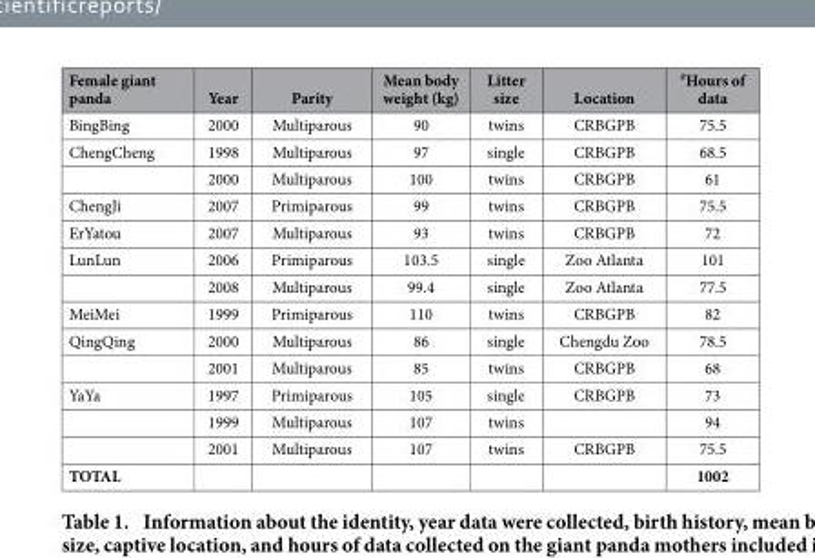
<table><thead><tr><td>Female giant panda</td><td>Year</td><td>Parity</td><td>Mean body weight (kg)</td><td>Litter size</td><td>Location</td><td><sup>#</sup>Hours of data</td></tr></thead><tbody><tr><td>BingBing</td><td>2000</td><td>Multiparous</td><td>90</td><td>twins</td><td>CRBGPB</td><td>75.5</td></tr><tr><td rowspan="2">ChengCheng</td><td>1998</td><td>Multiparous</td><td>97</td><td>single</td><td>CRBGPB</td><td>68.5</td></tr><tr><td>2000</td><td>Multiparous</td><td>100</td><td>twins</td><td>CRBGPB</td><td>61</td></tr><tr><td>ChengJi</td><td>2007</td><td>Primiparous</td><td>99</td><td>twins</td><td>CRBGPB</td><td>75.5</td></tr><tr><td>ErYatou</td><td>2007</td><td>Multiparous</td><td>93</td><td>twins</td><td>CRBGPB</td><td>72</td></tr><tr><td rowspan="2">LunLun</td><td>2006</td><td>Primiparous</td><td>103.5</td><td>single</td><td>Zoo Atlanta</td><td>101</td></tr><tr><td>2008</td><td>Multiparous</td><td>99.4</td><td>single</td><td>Zoo Atlanta</td><td>77.5</td></tr><tr><td>MeiMei</td><td>1999</td><td>Primiparous</td><td>110</td><td>twins</td><td>CRBGPB</td><td>82</td></tr><tr><td rowspan="2">QingQing</td><td>2000</td><td>Multiparous</td><td>86</td><td>single</td><td>Chengdu Zoo</td><td>78.5</td></tr><tr><td>2001</td><td>Multiparous</td><td>85</td><td>twins</td><td>CRBGPB</td><td>68</td></tr><tr><td rowspan="3">YaYa</td><td>1997</td><td>Primiparous</td><td>105</td><td>single</td><td>CRBGPB</td><td>73</td></tr><tr><td>1999</td><td>Multiparous</td><td>107</td><td>twins</td><td></td><td>94</td></tr><tr><td>2001</td><td>Multiparous</td><td>107</td><td>twins</td><td>CRBGPB</td><td>75.5</td></tr><tr><td>TOTAL</td><td></td><td></td><td></td><td></td><td></td><td>1002</td></tr></tbody></table>